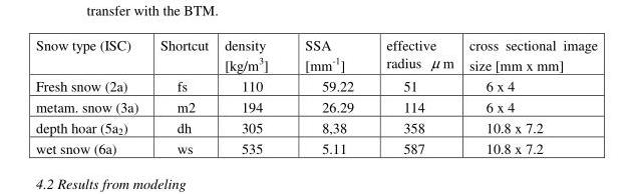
<table><thead><tr><td>Snow type (ISC)</td><td>Shortcut</td><td>density [kg/m<sup>3</sup>]</td><td>SSA [mm<sup>-1</sup>]</td><td>effective radius µ m</td><td>cross sectional image size [mm x mm]</td></tr></thead><tbody><tr><td>Fresh snow (2a)</td><td>fs</td><td>110</td><td>59.22</td><td>51</td><td>6 x 4</td></tr><tr><td>metam. snow (3a)</td><td>m2</td><td>194</td><td>26.29</td><td>114</td><td>6 x 4</td></tr><tr><td>depth hoar (5a<sub>2</sub>)</td><td>dh</td><td>305</td><td>8,38</td><td>358</td><td>10.8 x 7.2</td></tr><tr><td>wet snow (6a)</td><td>ws</td><td>535</td><td>5.11</td><td>587</td><td>10.8 x 7.2</td></tr></tbody></table>